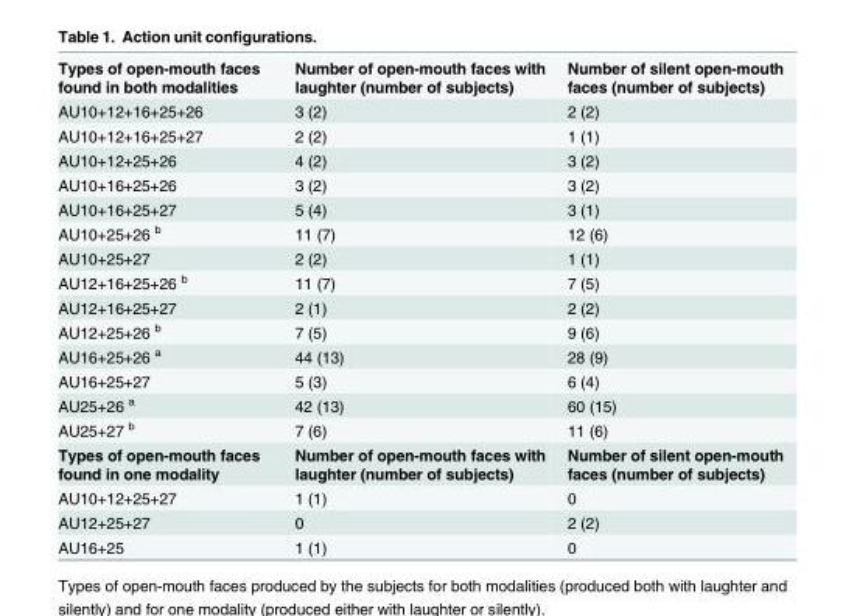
<table><tbody><tr><td>Types of open-mouth faces found in both modalities</td><td>Number of open-mouth faces with laughter (number of subjects)</td><td>Number of silent open-mouth faces (number of subjects)</td></tr><tr><td>AU10+12+16+25+26</td><td>3 (2)</td><td>2 (2)</td></tr><tr><td>AU10+12+16+25+27</td><td>2 (2)</td><td>1 (1)</td></tr><tr><td>AU10+12+25+26</td><td>4 (2)</td><td>3 (2)</td></tr><tr><td>AU10+16+25+26</td><td>3 (2)</td><td>3 (2)</td></tr><tr><td>AU10+16+25+27</td><td>5 (4)</td><td>3 (1)</td></tr><tr><td>AU10+25+26 <sup>b</sup></td><td>11 (7)</td><td>12 (6)</td></tr><tr><td>AU10+25+27</td><td>2 (2)</td><td>1 (1)</td></tr><tr><td>AU12+16+25+26 <sup>b</sup></td><td>11 (7)</td><td>7 (5)</td></tr><tr><td>AU12+16+25+27</td><td>2 (1)</td><td>2 (2)</td></tr><tr><td>AU12+25+26 <sup>b</sup></td><td>7 (5)</td><td>9 (6)</td></tr><tr><td>AU16+25+26 <sup>a</sup></td><td>44 (13)</td><td>28 (9)</td></tr><tr><td>AU16+25+27</td><td>5 (3)</td><td>6 (4)</td></tr><tr><td>AU25+26 <sup>a</sup></td><td>42 (13)</td><td>60 (15)</td></tr><tr><td>AU25+27 <sup>b</sup></td><td>7 (6)</td><td>11 (6)</td></tr><tr><td>Types of open-mouth faces found in one modality</td><td>Number of open-mouth faces with laughter (number of subjects)</td><td>Number of silent open-mouth faces (number of subjects)</td></tr><tr><td>AU10+12+25+27</td><td>1 (1)</td><td>0</td></tr><tr><td>AU12+25+27</td><td>0</td><td>2 (2)</td></tr><tr><td>AU16+25</td><td>1 (1)</td><td>0</td></tr></tbody></table>